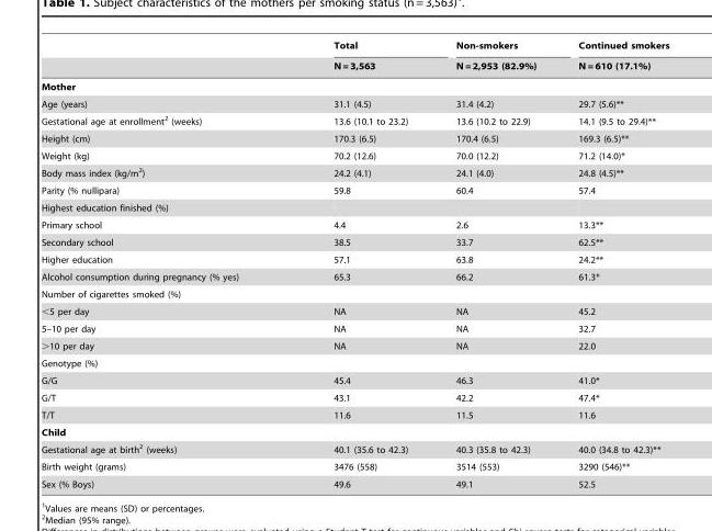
<table><thead><tr><td rowspan="2"></td><td rowspan="2">Total N = 3,563</td><td rowspan="2">Non-smokers N = 2,953 (82.9%)</td><td rowspan="2">Continued smokers N = 610 (17.1%)</td></tr><tr></tr></thead><tbody><tr><td colspan="4">Mother</td></tr><tr><td>Age (years)</td><td>31.1 (4.5)</td><td>31.4 (4.2)</td><td>29.7 (5.6)**</td></tr><tr><td>Gestational age at enrollment<sup>2</sup> (weeks)</td><td>13.6 (10.1 to 23.2)</td><td>13.6 (10.2 to 22.9)</td><td>14.1 (9.5 to 29.4)**</td></tr><tr><td>Height (cm)</td><td>170.3 (6.5)</td><td>170.4 (6.5)</td><td>169.3 (6.5)**</td></tr><tr><td>Weight (kg)</td><td>70.2 (12.6)</td><td>70.0 (12.2)</td><td>71.2 (14.0)*</td></tr><tr><td>Body mass index (kg/m<sup>2</sup>)</td><td>24.2 (4.1)</td><td>24.1 (4.0)</td><td>24.8 (4.5)**</td></tr><tr><td>Parity (% nullipara)</td><td>59.8</td><td>60.4</td><td>57.4</td></tr><tr><td colspan="4">Highest education finished (%)</td></tr><tr><td>Primary school</td><td>4.4</td><td>2.6</td><td>13.3**</td></tr><tr><td>Secondary school</td><td>38.5</td><td>33.7</td><td>62.5**</td></tr><tr><td>Higher education</td><td>57.1</td><td>63.8</td><td>24.2**</td></tr><tr><td>Alcohol consumption during pregnancy (% yes)</td><td>65.3</td><td>66.2</td><td>61.3*</td></tr><tr><td colspan="4">Number of cigarettes smoked (%)</td></tr><tr><td>&lt;5 per day</td><td>NA</td><td>NA</td><td>45.2</td></tr><tr><td>5–10 per day</td><td>NA</td><td>NA</td><td>32.7</td></tr><tr><td>&gt;10 per day</td><td>NA</td><td>NA</td><td>22.0</td></tr><tr><td colspan="4">Genotype (%)</td></tr><tr><td>G/G</td><td>45.4</td><td>46.3</td><td>41.0*</td></tr><tr><td>G/T</td><td>43.1</td><td>42.2</td><td>47.4*</td></tr><tr><td>T/T</td><td>11.6</td><td>11.5</td><td>11.6</td></tr><tr><td colspan="4">Child</td></tr><tr><td>Gestational age at birth<sup>2</sup> (weeks)</td><td>40.1 (35.6 to 42.3)</td><td>40.3 (35.8 to 42.3)</td><td>40.0 (34.8 to 42.3)**</td></tr><tr><td>Birth weight (grams)</td><td>3476 (558)</td><td>3514 (553)</td><td>3290 (546)**</td></tr><tr><td>Sex (% Boys)</td><td>49.6</td><td>49.1</td><td>52.5</td></tr></tbody></table>